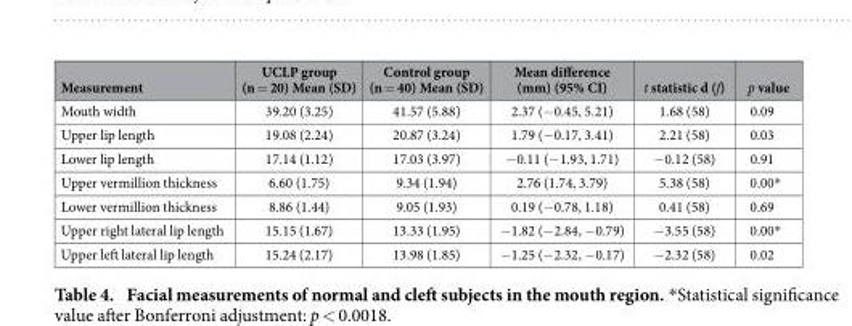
<table><thead><tr><td>Measurement</td><td>UCLP group (n = 20) Mean (SD)</td><td>Control group (n = 40) Mean (SD)</td><td>Mean difference (mm) (95% CI)</td><td>t statistic d (f)</td><td>p value</td></tr></thead><tbody><tr><td>Mouth width</td><td>39.20 (3.25)</td><td>41.57 (5.88)</td><td>2.37 (− 0.45, 5.21)</td><td>1.68 (58)</td><td>0.09</td></tr><tr><td>Upper lip length</td><td>19.08 (2.24)</td><td>20.87 (3.24)</td><td>1.79 (− 0.17, 3.41)</td><td>2.21 (58)</td><td>0.03</td></tr><tr><td>Lower lip length</td><td>17.14 (1.12)</td><td>17.03 (3.97)</td><td>− 0.11 (− 1.93, 1.71)</td><td>− 0.12 (58)</td><td>0.91</td></tr><tr><td>Upper vermillion thickness</td><td>6.60 (1.75)</td><td>9.34 (1.94)</td><td>2.76 (1.74, 3.79)</td><td>5.38 (58)</td><td>0.00*</td></tr><tr><td>Lower vermillion thickness</td><td>8.86 (1.44)</td><td>9.05 (1.93)</td><td>0.19 (− 0.78, 1.18)</td><td>0.41 (58)</td><td>0.69</td></tr><tr><td>Upper right lateral lip length</td><td>15.15 (1.67)</td><td>13.33 (1.95)</td><td>− 1.82 (− 2.84, − 0.79)</td><td>− 3.55 (58)</td><td>0.00*</td></tr><tr><td>Upper left lateral lip length</td><td>15.24 (2.17)</td><td>13.98 (1.85)</td><td>− 1.25 (− 2.32, − 0.17)</td><td>− 2.32 (58)</td><td>0.02</td></tr></tbody></table>